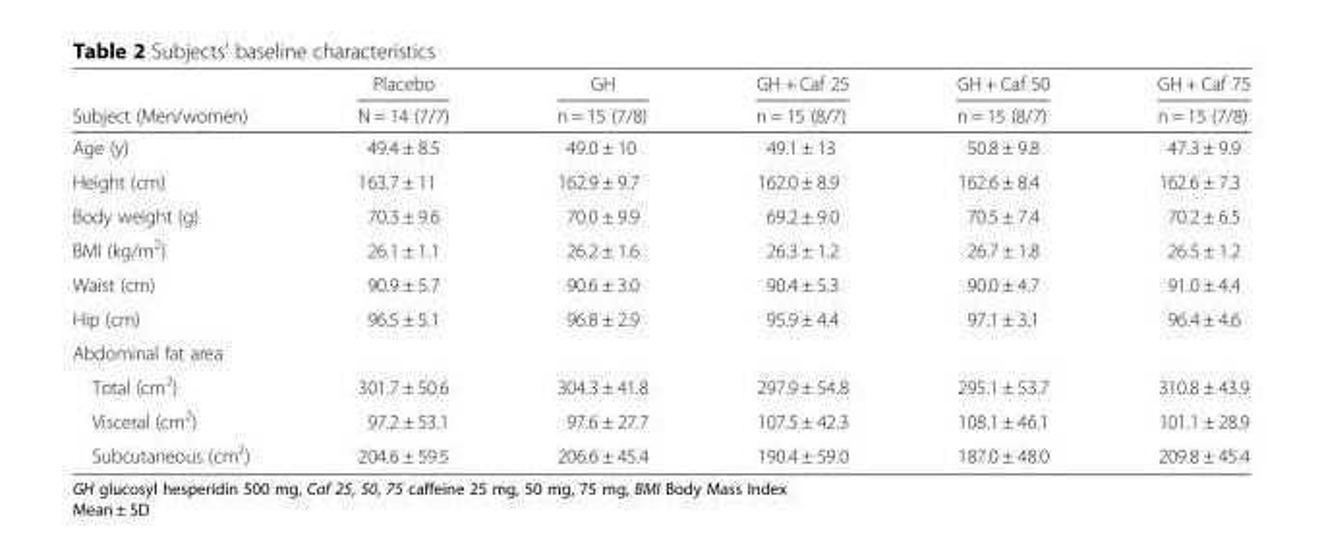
<table><thead><tr><td rowspan="2">Subject (Men/women)</td><td rowspan="2">Placebo N = 14 (7/7)</td><td rowspan="2">GH n = 15 (7/8)</td><td rowspan="2">GH + Caf 25 n = 15 (8/7)</td><td rowspan="2">GH + Caf 50 n = 15 (8/7)</td><td rowspan="2">GH + Caf 75 n = 15 (7/8)</td></tr><tr></tr></thead><tbody><tr><td>Age (y)</td><td>49.4 ± 8.5</td><td>49.0 ± 10</td><td>49.1 ± 13</td><td>50.8 ± 9.8</td><td>47.3 ± 9.9</td></tr><tr><td>Height (cm)</td><td>163.7 ± 11</td><td>162.9 ± 9.7</td><td>162.0 ± 8.9</td><td>162.6 ± 8.4</td><td>162.6 ± 7.3</td></tr><tr><td>Body weight (g)</td><td>70.3 ± 9.6</td><td>70.0 ± 9.9</td><td>69.2 ± 9.0</td><td>70.5 ± 7.4</td><td>70.2 ± 6.5</td></tr><tr><td>BMI (kg/m<sup>2</sup>)</td><td>26.1 ± 1.1</td><td>26.2 ± 1.6</td><td>26.3 ± 1.2</td><td>26.7 ± 1.8</td><td>26.5 ± 1.2</td></tr><tr><td>Waist (cm)</td><td>90.9 ± 5.7</td><td>90.6 ± 3.0</td><td>90.4 ± 5.3</td><td>90.0 ± 4.7</td><td>91.0 ± 4.4</td></tr><tr><td>Hip (cm)</td><td>96.5 ± 5.1</td><td>96.8 ± 2.9</td><td>95.9 ± 4.4</td><td>97.1 ± 3.1</td><td>96.4 ± 4.6</td></tr><tr><td colspan="6">Abdominal fat area</td></tr><tr><td>Total (cm<sup>2</sup>)</td><td>301.7 ± 50.6</td><td>304.3 ± 41.8</td><td>297.9 ± 54.8</td><td>295.1 ± 53.7</td><td>310.8 ± 43.9</td></tr><tr><td>Visceral (cm<sup>2</sup>)</td><td>97.2 ± 53.1</td><td>97.6 ± 27.7</td><td>107.5 ± 42.3</td><td>108.1 ± 46.1</td><td>101.1 ± 28.9</td></tr><tr><td>Subcutaneous (cm<sup>2</sup>)</td><td>204.6 ± 59.5</td><td>206.6 ± 45.4</td><td>190.4 ± 59.0</td><td>187.0 ± 48.0</td><td>209.8 ± 45.4</td></tr></tbody></table>